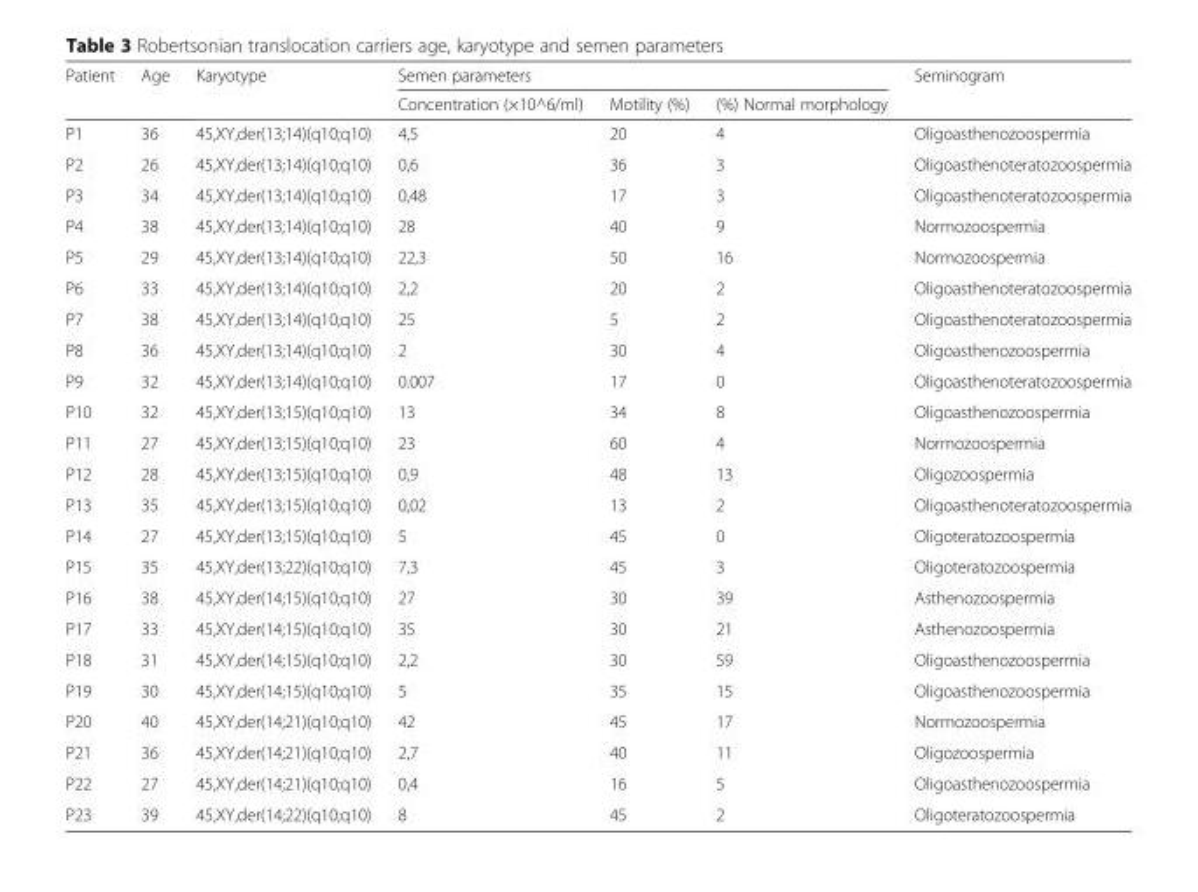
<table><thead><tr><td rowspan="2">Patient</td><td rowspan="2">Age</td><td rowspan="2">Karyotype</td><td colspan="3">Semen parameters</td><td rowspan="2">Seminogram</td></tr><tr><td>Concentration (×10^6/ml)</td><td>Motility (%)</td><td>(%) Normal morphology</td></tr></thead><tbody><tr><td>P1</td><td>36</td><td>45,XY,der(13;14)(q10;q10)</td><td>4,5</td><td>20</td><td>4</td><td>Oligoasthenozoospermia</td></tr><tr><td>P2</td><td>26</td><td>45,XY,der(13;14)(q10;q10)</td><td>0,6</td><td>36</td><td>3</td><td>Oligoasthenoteratozoospermia</td></tr><tr><td>P3</td><td>34</td><td>45,XY,der(13;14)(q10;q10)</td><td>0,48</td><td>17</td><td>3</td><td>Oligoasthenoteratozoospermia</td></tr><tr><td>P4</td><td>38</td><td>45,XY,der(13;14)(q10;q10)</td><td>28</td><td>40</td><td>9</td><td>Normozoospermia</td></tr><tr><td>P5</td><td>29</td><td>45,XY,der(13;14)(q10;q10)</td><td>22,3</td><td>50</td><td>16</td><td>Normozoospermia</td></tr><tr><td>P6</td><td>33</td><td>45,XY,der(13;14)(q10;q10)</td><td>2,2</td><td>20</td><td>2</td><td>Oligoasthenoteratozoospermia</td></tr><tr><td>P7</td><td>38</td><td>45,XY,der(13;14)(q10;q10)</td><td>25</td><td>5</td><td>2</td><td>Oligoasthenoteratozoospermia</td></tr><tr><td>P8</td><td>36</td><td>45,XY,der(13;14)(q10;q10)</td><td>2</td><td>30</td><td>4</td><td>Oligoasthenozoospermia</td></tr><tr><td>P9</td><td>32</td><td>45,XY,der(13;14)(q10;q10)</td><td>0.007</td><td>17</td><td>0</td><td>Oligoasthenoteratozoospermia</td></tr><tr><td>P10</td><td>32</td><td>45,XY,der(13;15)(q10;q10)</td><td>13</td><td>34</td><td>8</td><td>Oligoasthenozoospermia</td></tr><tr><td>P11</td><td>27</td><td>45,XY,der(13;15)(q10;q10)</td><td>23</td><td>60</td><td>4</td><td>Normozoospermia</td></tr><tr><td>P12</td><td>28</td><td>45,XY,der(13;15)(q10;q10)</td><td>0,9</td><td>48</td><td>13</td><td>Oligozoospermia</td></tr><tr><td>P13</td><td>35</td><td>45,XY,der(13;15)(q10;q10)</td><td>0,02</td><td>13</td><td>2</td><td>Oligoasthenoteratozoospermia</td></tr><tr><td>P14</td><td>27</td><td>45,XY,der(13;15)(q10;q10)</td><td>5</td><td>45</td><td>0</td><td>Oligoteratozoospermia</td></tr><tr><td>P15</td><td>35</td><td>45,XY,der(13;22)(q10;q10)</td><td>7,3</td><td>45</td><td>3</td><td>Oligoteratozoospermia</td></tr><tr><td>P16</td><td>38</td><td>45,XY,der(14;15)(q10;q10)</td><td>27</td><td>30</td><td>39</td><td>Asthenozoospermia</td></tr><tr><td>P17</td><td>33</td><td>45,XY,der(14;15)(q10;q10)</td><td>35</td><td>30</td><td>21</td><td>Asthenozoospermia</td></tr><tr><td>P18</td><td>31</td><td>45,XY,der(14;15)(q10;q10)</td><td>2,2</td><td>30</td><td>59</td><td>Oligoasthenozoospermia</td></tr><tr><td>P19</td><td>30</td><td>45,XY,der(14;15)(q10;q10)</td><td>5</td><td>35</td><td>15</td><td>Oligoasthenozoospermia</td></tr><tr><td>P20</td><td>40</td><td>45,XY,der(14;21)(q10;q10)</td><td>42</td><td>45</td><td>17</td><td>Normozoospermia</td></tr><tr><td>P21</td><td>36</td><td>45,XY,der(14;21)(q10;q10)</td><td>2,7</td><td>40</td><td>11</td><td>Oligozoospermia</td></tr><tr><td>P22</td><td>27</td><td>45,XY,der(14;21)(q10;q10)</td><td>0,4</td><td>16</td><td>5</td><td>Oligoasthenozoospermia</td></tr><tr><td>P23</td><td>39</td><td>45,XY,der(14;22)(q10;q10)</td><td>8</td><td>45</td><td>2</td><td>Oligoteratozoospermia</td></tr></tbody></table>